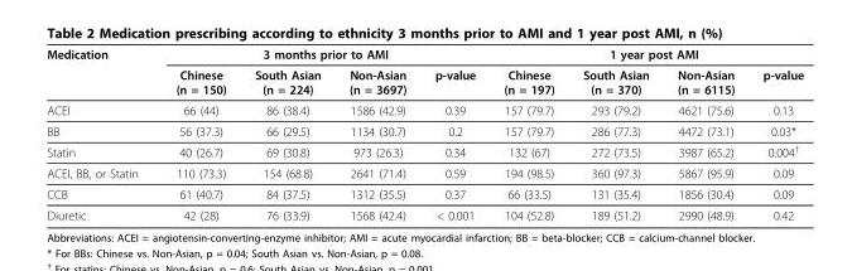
<table><thead><tr><td rowspan="2">Medication</td><td colspan="4">3 months prior to AMI</td><td colspan="4">1 year post AMI</td></tr><tr><td>Chinese (n = 150)</td><td>South Asian (n = 224)</td><td>Non-Asian (n = 3697)</td><td>p-value</td><td>Chinese (n = 197)</td><td>South Asian (n = 370)</td><td>Non-Asian (n = 6115)</td><td>p-value</td></tr></thead><tbody><tr><td>ACEI</td><td>66 (44)</td><td>86 (38.4)</td><td>1586 (42.9)</td><td>0.39</td><td>157 (79.7)</td><td>293 (79.2)</td><td>4621 (75.6)</td><td>0.13</td></tr><tr><td>BB</td><td>56 (37.3)</td><td>66 (29.5)</td><td>1134 (30.7)</td><td>0.2</td><td>157 (79.7)</td><td>286 (77.3)</td><td>4472 (73.1)</td><td>0.03*</td></tr><tr><td>Statin</td><td>40 (26.7)</td><td>69 (30.8)</td><td>973 (26.3)</td><td>0.34</td><td>132 (67)</td><td>272 (73.5)</td><td>3987 (65.2)</td><td>0.004<sup>†</sup></td></tr><tr><td>ACEI, BB, or Statin</td><td>110 (73.3)</td><td>154 (68.8)</td><td>2641 (71.4)</td><td>0.59</td><td>194 (98.5)</td><td>360 (97.3)</td><td>5867 (95.9)</td><td>0.09</td></tr><tr><td>CCB</td><td>61 (40.7)</td><td>84 (37.5)</td><td>1312 (35.5)</td><td>0.37</td><td>66 (33.5)</td><td>131 (35.4)</td><td>1856 (30.4)</td><td>0.09</td></tr><tr><td>Diuretic</td><td>42 (28)</td><td>76 (33.9)</td><td>1568 (42.4)</td><td>&lt; 0.001</td><td>104 (52.8)</td><td>189 (51.2)</td><td>2990 (48.9)</td><td>0.42</td></tr></tbody></table>